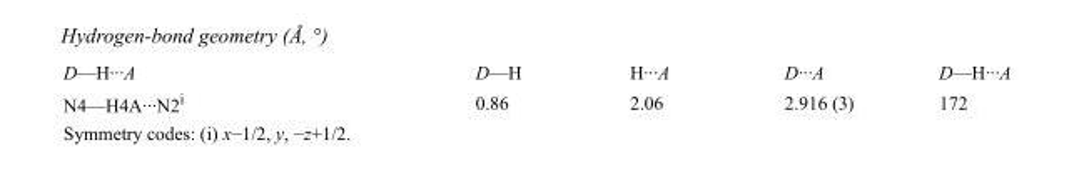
<table><tbody><tr><td>D—H···A</td><td>D—H</td><td>H···A</td><td>D···A</td><td>D—H···A</td></tr><tr><td>N4—H4A···N2<sup>i</sup></td><td>0.86</td><td>2.06</td><td>2.916 (3)</td><td>172</td></tr></tbody></table>